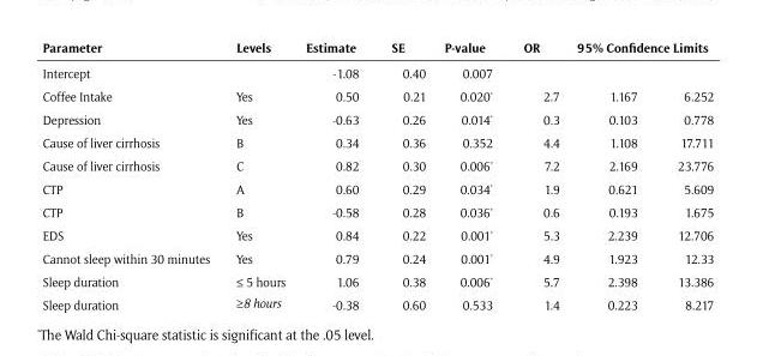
<table><thead><tr><td rowspan="2">Parameter Intercept</td><td rowspan="2">Levels</td><td rowspan="2">Estimate -1.08</td><td rowspan="2">SE 0.40</td><td rowspan="2">P-value 0.007</td><td rowspan="2">OR</td><td colspan="2">95% Confidence Limits</td></tr><tr><td></td><td></td></tr></thead><tbody><tr><td>Coffee Intake</td><td>Yes</td><td>0.50</td><td>0.21</td><td>0.020*</td><td>2.7</td><td>1.167</td><td>6.252</td></tr><tr><td>Depression</td><td>Yes</td><td>-0.63</td><td>0.26</td><td>0.014*</td><td>0.3</td><td>0.103</td><td>0.778</td></tr><tr><td>Cause of liver cirrhosis</td><td>B</td><td>0.34</td><td>0.36</td><td>0.352</td><td>4.4</td><td>1.108</td><td>17.711</td></tr><tr><td>Cause of liver cirrhosis</td><td>C</td><td>0.82</td><td>0.30</td><td>0.006*</td><td>7.2</td><td>2.169</td><td>23.776</td></tr><tr><td>CTP</td><td>A</td><td>0.60</td><td>0.29</td><td>0.034*</td><td>1.9</td><td>0.621</td><td>5.609</td></tr><tr><td>CTP</td><td>B</td><td>-0.58</td><td>0.28</td><td>0.036*</td><td>0.6</td><td>0.193</td><td>1.675</td></tr><tr><td>EDS</td><td>Yes</td><td>0.84</td><td>0.22</td><td>0.001*</td><td>5.3</td><td>2.239</td><td>12.706</td></tr><tr><td>Cannot sleep within 30 minutes</td><td>Yes</td><td>0.79</td><td>0.24</td><td>0.001*</td><td>4.9</td><td>1.923</td><td>12.33</td></tr><tr><td>Sleep duration</td><td>≤ 5 hours</td><td>1.06</td><td>0.38</td><td>0.006*</td><td>5.7</td><td>2.398</td><td>13.386</td></tr><tr><td>Sleep duration</td><td>≥8 hours</td><td>-0.38</td><td>0.60</td><td>0.533</td><td>1.4</td><td>0.223</td><td>8.217</td></tr></tbody></table>